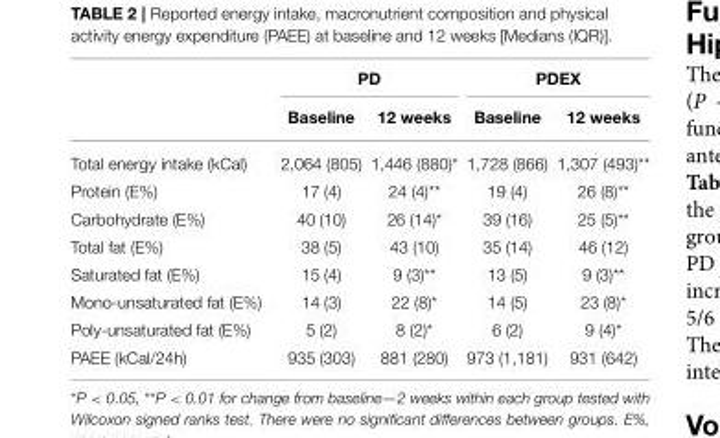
<table><thead><tr><td rowspan="2"></td><td colspan="2">PD</td><td colspan="2">PDEX</td></tr><tr><td>Baseline</td><td>12 weeks</td><td>Baseline</td><td>12 weeks</td></tr></thead><tbody><tr><td>Total energy intake (kCal)</td><td>2,064 (805)</td><td>1,446 (880)*</td><td>1,728 (866)</td><td>1,307 (493)**</td></tr><tr><td>Protein (E%)</td><td>17 (4)</td><td>24 (4)**</td><td>19 (4)</td><td>26 (8)**</td></tr><tr><td>Carbohydrate (E%)</td><td>40 (10)</td><td>26 (14)*</td><td>39 (16)</td><td>25 (5)**</td></tr><tr><td>Total fat (E%)</td><td>38 (5)</td><td>43 (10)</td><td>35 (14)</td><td>46 (12)</td></tr><tr><td>Saturated fat (E%)</td><td>15 (4)</td><td>9 (3)**</td><td>13 (5)</td><td>9 (3)**</td></tr><tr><td>Mono-unsaturated fat (E%)</td><td>14 (3)</td><td>22 (8)*</td><td>14 (5)</td><td>23 (8)*</td></tr><tr><td>Poly-unsaturated fat (E%)</td><td>5 (2)</td><td>8 (2)*</td><td>6 (2)</td><td>9 (4)*</td></tr><tr><td>PAEE (kCal/24h)</td><td>935 (303)</td><td>881 (280)</td><td>973 (1,181)</td><td>931 (642)</td></tr></tbody></table>